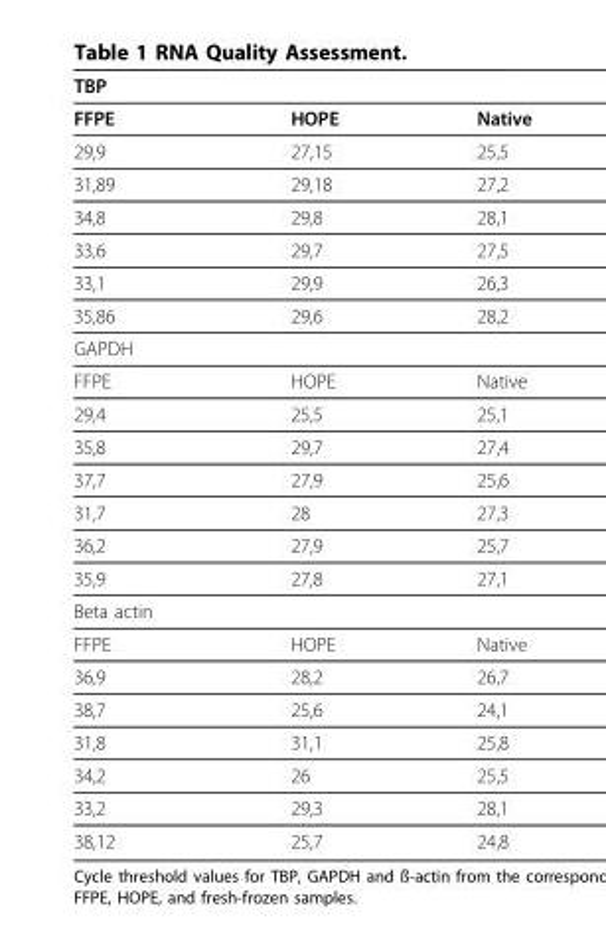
<table><thead><tr><td>TBP</td><td></td><td></td></tr></thead><tbody><tr><td>FFPE</td><td>HOPE</td><td>Native</td></tr><tr><td>29,9</td><td>27,15</td><td>25,5</td></tr><tr><td>31,89</td><td>29,18</td><td>27,2</td></tr><tr><td>34,8</td><td>29,8</td><td>28,1</td></tr><tr><td>33,6</td><td>29,7</td><td>27,5</td></tr><tr><td>33,1</td><td>29,9</td><td>26,3</td></tr><tr><td>35,86</td><td>29,6</td><td>28,2</td></tr><tr><td colspan="3">GAPDH</td></tr><tr><td>FFPE</td><td>HOPE</td><td>Native</td></tr><tr><td>29,4</td><td>25,5</td><td>25,1</td></tr><tr><td>35,8</td><td>29,7</td><td>27,4</td></tr><tr><td>37,7</td><td>27,9</td><td>25,6</td></tr><tr><td>31,7</td><td>28</td><td>27,3</td></tr><tr><td>36,2</td><td>27,9</td><td>25,7</td></tr><tr><td>35,9</td><td>27,8</td><td>27,1</td></tr><tr><td colspan="3">Beta actin</td></tr><tr><td>FFPE</td><td>HOPE</td><td>Native</td></tr><tr><td>36,9</td><td>28,2</td><td>26,7</td></tr><tr><td>38,7</td><td>25,6</td><td>24,1</td></tr><tr><td>31,8</td><td>31,1</td><td>25,8</td></tr><tr><td>34,2</td><td>26</td><td>25,5</td></tr><tr><td>33,2</td><td>29,3</td><td>28,1</td></tr><tr><td>38,12</td><td>25,7</td><td>24,8</td></tr></tbody></table>